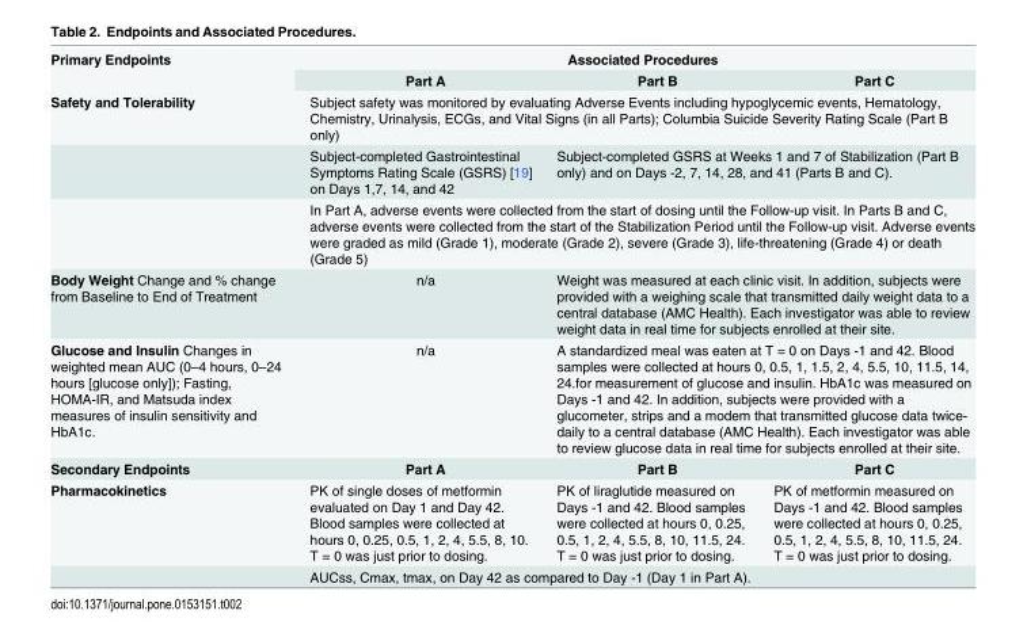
<table><tbody><tr><td rowspan="2">Primary Endpoints</td><td colspan="3">Associated Procedures</td></tr><tr><td>Part A</td><td>Part B</td><td>Part C</td></tr><tr><td rowspan="3">Safety and Tolerability</td><td colspan="3">Subject safety was monitored by evaluating Adverse Events including hypoglycemic events, Hematology, Chemistry, Urinalysis, ECGs, and Vital Signs (in all Parts); Columbia Suicide Severity Rating Scale (Part B only)</td></tr><tr><td>Subject-completed Gastrointestinal Symptoms Rating Scale (GSRS) [19] on Days 1,7, 14, and 42</td><td colspan="2">Subject-completed GSRS at Weeks 1 and 7 of Stabilization (Part B only) and on Days -2, 7, 14, 28, and 41 (Parts B and C).</td></tr><tr><td colspan="3">In Part A, adverse events were collected from the start of dosing until the Follow-up visit. In Parts B and C, adverse events were collected from the start of the Stabilization Period until the Follow-up visit. Adverse events were graded as mild (Grade 1), moderate (Grade 2), severe (Grade 3), life-threatening (Grade 4) or death (Grade 5)</td></tr><tr><td>Body Weight Change and % change from Baseline to End of Treatment</td><td>n/a</td><td colspan="2">Weight was measured at each clinic visit. In addition, subjects were provided with a weighing scale that transmitted daily weight data to a central database (AMC Health). Each investigator was able to review weight data in real time for subjects enrolled at their site.</td></tr><tr><td>Glucose and Insulin Changes in weighted mean AUC (0–4 hours, 0–24 hours [glucose only]); Fasting, HOMA-IR, and Matsuda index measures of insulin sensitivity and HbA1c.</td><td>n/a</td><td colspan="2">A standardized meal was eaten at T = 0 on Days -1 and 42. Blood samples were collected at hours 0, 0.5, 1, 1.5, 2, 4, 5.5, 10, 11.5, 14, 24.for measurement of glucose and insulin. HbA1c was measured on Days -1 and 42. In addition, subjects were provided with a glucometer, strips and a modem that transmitted glucose data twice- daily to a central database (AMC Health). Each investigator was able to review glucose data in real time for subjects enrolled at their site.</td></tr><tr><td>Secondary Endpoints</td><td>Part A</td><td>Part B</td><td>Part C</td></tr><tr><td rowspan="2">Pharmacokinetics</td><td>PK of single doses of metformin evaluated on Day 1 and Day 42. Blood samples were collected at hours 0, 0.25, 0.5, 1, 2, 4, 5.5, 8, 10. T = 0 was just prior to dosing.</td><td>PK of liraglutide measured on Days -1 and 42. Blood samples were collected at hours 0, 0.25, 0.5, 1, 2, 4, 5.5, 8, 10, 11.5, 24. T = 0 was just prior to dosing.</td><td>PK of metformin measured on Days -1 and 42. Blood samples were collected at hours 0, 0.25, 0.5, 1, 2, 4, 5.5, 8, 10, 11.5, 24. T = 0 was just prior to dosing.</td></tr><tr><td colspan="3">AUCss, Cmax, tmax, on Day 42 as compared to Day -1 (Day 1 in Part A).</td></tr></tbody></table>